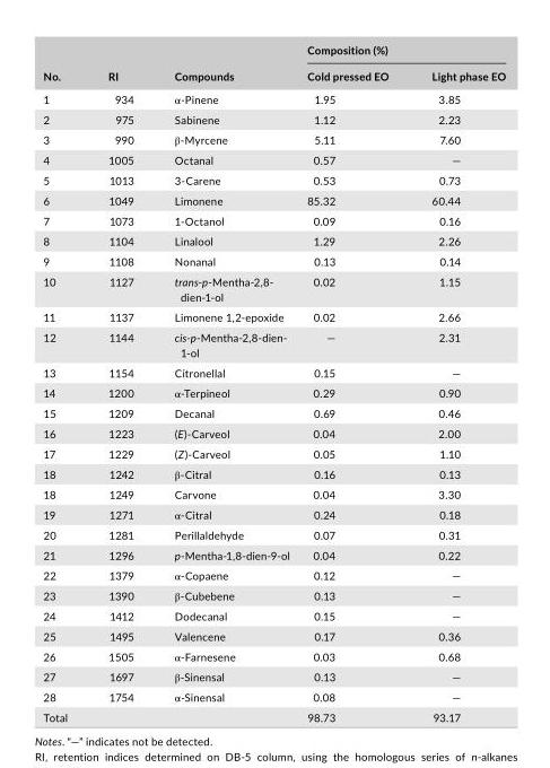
<table><thead><tr><td rowspan="2">No.</td><td rowspan="2">RI</td><td rowspan="2">Compounds</td><td colspan="2">Composition (%)</td></tr><tr><td>Cold pressed EO</td><td>Light phase EO</td></tr></thead><tbody><tr><td>1</td><td>934</td><td>α- Pinene</td><td>1.95</td><td>3.85</td></tr><tr><td>2</td><td>975</td><td>Sabinene</td><td>1.12</td><td>2.23</td></tr><tr><td>3</td><td>990</td><td>β- Myrcene</td><td>5.11</td><td>7.60</td></tr><tr><td>4</td><td>1005</td><td>Octanal</td><td>0.57</td><td>—</td></tr><tr><td>5</td><td>1013</td><td>3- Carene</td><td>0.53</td><td>0.73</td></tr><tr><td>6</td><td>1049</td><td>Limonene</td><td>85.32</td><td>60.44</td></tr><tr><td>7</td><td>1073</td><td>1- Octanol</td><td>0.09</td><td>0.16</td></tr><tr><td>8</td><td>1104</td><td>Linalool</td><td>1.29</td><td>2.26</td></tr><tr><td>9</td><td>1108</td><td>Nonanal</td><td>0.13</td><td>0.14</td></tr><tr><td>10</td><td>1127</td><td>trans-p- Mentha- 2,8- dien- 1- ol</td><td>0.02</td><td>1.15</td></tr><tr><td>11</td><td>1137</td><td>Limonene 1,2- epoxide</td><td>0.02</td><td>2.66</td></tr><tr><td>12</td><td>1144</td><td>cis-p- Mentha- 2,8- dien- 1- ol</td><td>—</td><td>2.31</td></tr><tr><td>13</td><td>1154</td><td>Citronellal</td><td>0.15</td><td>—</td></tr><tr><td>14</td><td>1200</td><td>α- Terpineol</td><td>0.29</td><td>0.90</td></tr><tr><td>15</td><td>1209</td><td>Decanal</td><td>0.69</td><td>0.46</td></tr><tr><td>16</td><td>1223</td><td>(E)- Carveol</td><td>0.04</td><td>2.00</td></tr><tr><td>17</td><td>1229</td><td>(Z)- Carveol</td><td>0.05</td><td>1.10</td></tr><tr><td>18</td><td>1242</td><td>β- Citral</td><td>0.16</td><td>0.13</td></tr><tr><td>18</td><td>1249</td><td>Carvone</td><td>0.04</td><td>3.30</td></tr><tr><td>19</td><td>1271</td><td>α- Citral</td><td>0.24</td><td>0.18</td></tr><tr><td>20</td><td>1281</td><td>Perillaldehyde</td><td>0.07</td><td>0.31</td></tr><tr><td>21</td><td>1296</td><td>p- Mentha- 1,8- dien- 9- ol</td><td>0.04</td><td>0.22</td></tr><tr><td>22</td><td>1379</td><td>α- Copaene</td><td>0.12</td><td>—</td></tr><tr><td>23</td><td>1390</td><td>β- Cubebene</td><td>0.13</td><td>—</td></tr><tr><td>24</td><td>1412</td><td>Dodecanal</td><td>0.15</td><td>—</td></tr><tr><td>25</td><td>1495</td><td>Valencene</td><td>0.17</td><td>0.36</td></tr><tr><td>26</td><td>1505</td><td>α- Farnesene</td><td>0.03</td><td>0.68</td></tr><tr><td>27</td><td>1697</td><td>β- Sinensal</td><td>0.13</td><td>—</td></tr><tr><td>28</td><td>1754</td><td>α- Sinensal</td><td>0.08</td><td>—</td></tr><tr><td>Total</td><td></td><td></td><td>98.73</td><td>93.17</td></tr></tbody></table>